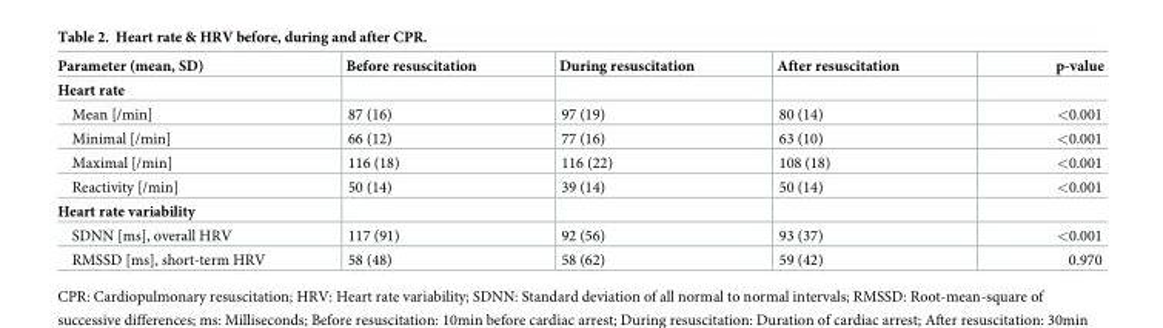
<table><thead><tr><td>Parameter (mean, SD)</td><td>Before resuscitation</td><td>During resuscitation</td><td>After resuscitation</td><td>p-value</td></tr></thead><tbody><tr><td colspan="5">Heart rate</td></tr><tr><td>Mean [/min]</td><td>87 (16)</td><td>97 (19)</td><td>80 (14)</td><td>&lt;0.001</td></tr><tr><td>Minimal [/min]</td><td>66 (12)</td><td>77 (16)</td><td>63 (10)</td><td>&lt;0.001</td></tr><tr><td>Maximal [/min]</td><td>116 (18)</td><td>116 (22)</td><td>108 (18)</td><td>&lt;0.001</td></tr><tr><td>Reactivity [/min]</td><td>50 (14)</td><td>39 (14)</td><td>50 (14)</td><td>&lt;0.001</td></tr><tr><td colspan="5">Heart rate variability</td></tr><tr><td>SDNN [ms], overall HRV</td><td>117 (91)</td><td>92 (56)</td><td>93 (37)</td><td>&lt;0.001</td></tr><tr><td>RMSSD [ms], short-term HRV</td><td>58 (48)</td><td>58 (62)</td><td>59 (42)</td><td>0.970</td></tr></tbody></table>